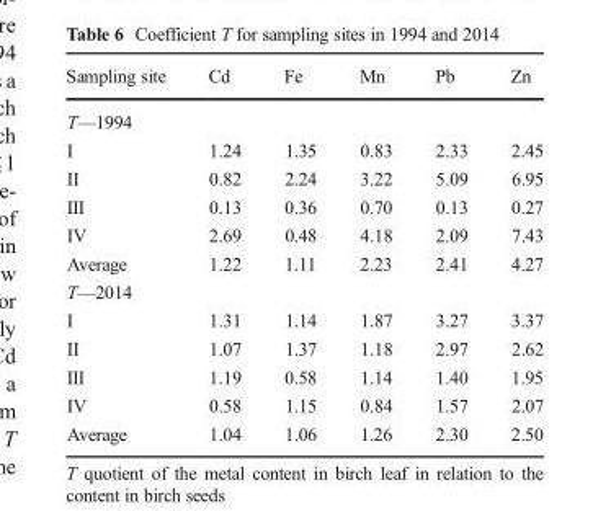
<table><thead><tr><td>Sampling site</td><td>Cd</td><td>Fe</td><td>Mn</td><td>Pb</td><td>Zn</td></tr></thead><tbody><tr><td colspan="6">T—1994</td></tr><tr><td>I</td><td>1.24</td><td>1.35</td><td>0.83</td><td>2.33</td><td>2.45</td></tr><tr><td>II</td><td>0.82</td><td>2.24</td><td>3.22</td><td>5.09</td><td>6.95</td></tr><tr><td>III</td><td>0.13</td><td>0.36</td><td>0.70</td><td>0.13</td><td>0.27</td></tr><tr><td>IV</td><td>2.69</td><td>0.48</td><td>4.18</td><td>2.09</td><td>7.43</td></tr><tr><td>Average</td><td>1.22</td><td>1.11</td><td>2.23</td><td>2.41</td><td>4.27</td></tr><tr><td colspan="6">T—2014</td></tr><tr><td>I</td><td>1.31</td><td>1.14</td><td>1.87</td><td>3.27</td><td>3.37</td></tr><tr><td>II</td><td>1.07</td><td>1.37</td><td>1.18</td><td>2.97</td><td>2.62</td></tr><tr><td>III</td><td>1.19</td><td>0.58</td><td>1.14</td><td>1.40</td><td>1.95</td></tr><tr><td>IV</td><td>0.58</td><td>1.15</td><td>0.84</td><td>1.57</td><td>2.07</td></tr><tr><td>Average</td><td>1.04</td><td>1.06</td><td>1.26</td><td>2.30</td><td>2.50</td></tr></tbody></table>